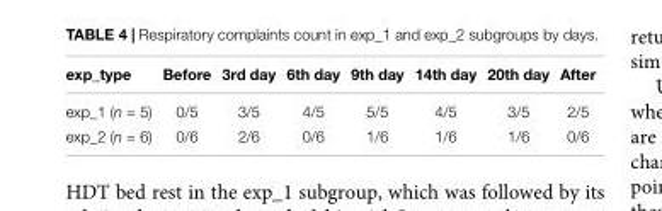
<table><thead><tr><td>exp_type</td><td>Before</td><td>3rd day</td><td>6th day</td><td>9th day</td><td>14th day</td><td>20th day</td><td>After</td></tr></thead><tbody><tr><td>exp_1 (n = 5)</td><td>0/5</td><td>3/5</td><td>4/5</td><td>5/5</td><td>4/5</td><td>3/5</td><td>2/5</td></tr><tr><td>exp_2 (n = 6)</td><td>0/6</td><td>2/6</td><td>0/6</td><td>1/6</td><td>1/6</td><td>1/6</td><td>0/6</td></tr></tbody></table>